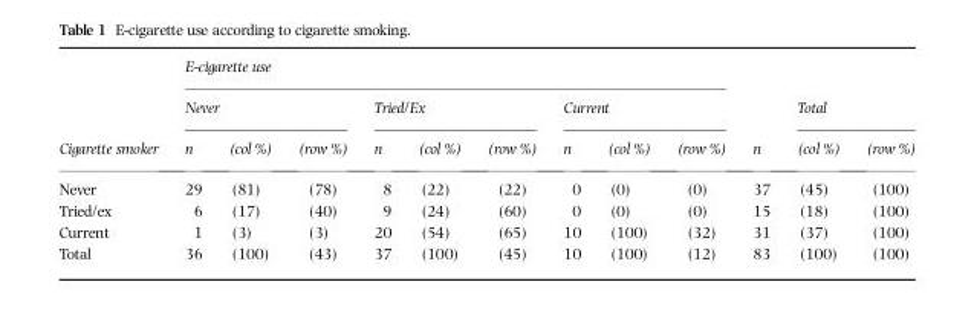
<table><thead><tr><td rowspan="3">Cigarette smoker</td><td colspan="9">E-cigarette use</td><td rowspan="3">n</td><td></td><td></td></tr><tr><td colspan="3">Never</td><td colspan="3">Tried/Ex</td><td colspan="3">Current</td><td colspan="2">Total</td></tr><tr><td>n</td><td>(col %)</td><td>(row %)</td><td>n</td><td>(col %)</td><td>(row %)</td><td>n</td><td>(col %)</td><td>(row %)</td><td>(col %)</td><td>(row %)</td></tr></thead><tbody><tr><td>Never</td><td>29</td><td>(81)</td><td>(78)</td><td>8</td><td>(22)</td><td>(22)</td><td>0</td><td>(0)</td><td>(0)</td><td>37</td><td>(45)</td><td>(100)</td></tr><tr><td>Tried/ex</td><td>6</td><td>(17)</td><td>(40)</td><td>9</td><td>(24)</td><td>(60)</td><td>0</td><td>(0)</td><td>(0)</td><td>15</td><td>(18)</td><td>(100)</td></tr><tr><td>Current</td><td>1</td><td>(3)</td><td>(3)</td><td>20</td><td>(54)</td><td>(65)</td><td>10</td><td>(100)</td><td>(32)</td><td>31</td><td>(37)</td><td>(100)</td></tr><tr><td>Total</td><td>36</td><td>(100)</td><td>(43)</td><td>37</td><td>(100)</td><td>(45)</td><td>10</td><td>(100)</td><td>(12)</td><td>83</td><td>(100)</td><td>(100)</td></tr></tbody></table>